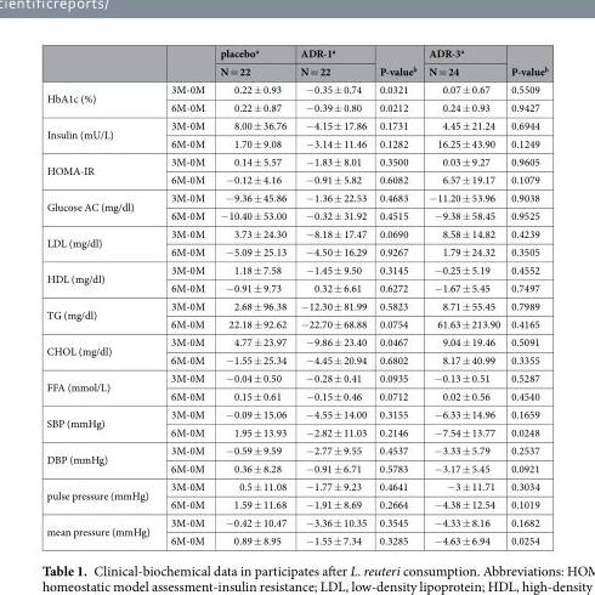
<table><thead><tr><td rowspan="2"></td><td rowspan="2"></td><td rowspan="2">placebo<sup>a</sup> N = 22</td><td rowspan="2">ADR-1<sup>a</sup> N = 22</td><td rowspan="2">P-value<sup>b</sup></td><td rowspan="2">ADR-3<sup>a</sup> N = 24</td><td rowspan="2">P-value<sup>b</sup></td></tr><tr></tr></thead><tbody><tr><td rowspan="2">HbA1c (%)</td><td>3M-0M</td><td>0.22 ± 0.93</td><td>−0.35 ± 0.74</td><td>0.0321</td><td>0.07 ± 0.67</td><td>0.5509</td></tr><tr><td>6M-0M</td><td>0.22 ± 0.87</td><td>−0.39 ± 0.80</td><td>0.0212</td><td>0.24 ± 0.93</td><td>0.9427</td></tr><tr><td rowspan="2">Insulin (mU/L)</td><td>3M-0M</td><td>8.00 ± 36.76</td><td>−4.15 ± 17.86</td><td>0.1731</td><td>4.45 ± 21.24</td><td>0.6944</td></tr><tr><td>6M-0M</td><td>1.70 ± 9.08</td><td>−3.14 ± 11.46</td><td>0.1282</td><td>16.25 ± 43.90</td><td>0.1249</td></tr><tr><td rowspan="2">HOMA-IR</td><td>3M-0M</td><td>0.14 ± 5.57</td><td>−1.83 ± 8.01</td><td>0.3500</td><td>0.03 ± 9.27</td><td>0.9605</td></tr><tr><td>6M-0M</td><td>−0.12 ± 4.16</td><td>−0.91 ± 5.82</td><td>0.6082</td><td>6.57 ± 19.17</td><td>0.1079</td></tr><tr><td rowspan="2">Glucose AC (mg/dl)</td><td>3M-0M</td><td>−9.36 ± 45.86</td><td>−1.36 ± 22.53</td><td>0.4683</td><td>−11.20 ± 53.96</td><td>0.9038</td></tr><tr><td>6M-0M</td><td>−10.40 ± 53.00</td><td>−0.32 ± 31.92</td><td>0.4515</td><td>−9.38 ± 58.45</td><td>0.9525</td></tr><tr><td rowspan="2">LDL (mg/dl)</td><td>3M-0M</td><td>3.73 ± 24.30</td><td>−8.18 ± 17.47</td><td>0.0690</td><td>8.58 ± 14.82</td><td>0.4239</td></tr><tr><td>6M-0M</td><td>−5.09 ± 25.13</td><td>−4.50 ± 16.29</td><td>0.9267</td><td>1.79 ± 24.32</td><td>0.3505</td></tr><tr><td rowspan="2">HDL (mg/dl)</td><td>3M-0M</td><td>1.18 ± 7.58</td><td>−1.45 ± 9.50</td><td>0.3145</td><td>−0.25 ± 5.19</td><td>0.4552</td></tr><tr><td>6M-0M</td><td>−0.91 ± 9.73</td><td>0.32 ± 6.61</td><td>0.6272</td><td>−1.67 ± 5.45</td><td>0.7497</td></tr><tr><td rowspan="2">TG (mg/dl)</td><td>3M-0M</td><td>2.68 ± 96.38</td><td>−12.30 ± 81.99</td><td>0.5823</td><td>8.71 ± 55.45</td><td>0.7989</td></tr><tr><td>6M-0M</td><td>22.18 ± 92.62</td><td>−22.70 ± 68.88</td><td>0.0754</td><td>61.63 ± 213.90</td><td>0.4165</td></tr><tr><td rowspan="2">CHOL (mg/dl)</td><td>3M-0M</td><td>4.77 ± 23.97</td><td>−9.86 ± 23.40</td><td>0.0467</td><td>9.04 ± 19.46</td><td>0.5091</td></tr><tr><td>6M-0M</td><td>−1.55 ± 25.34</td><td>−4.45 ± 20.94</td><td>0.6802</td><td>8.17 ± 40.99</td><td>0.3355</td></tr><tr><td rowspan="2">FFA (mmol/L)</td><td>3M-0M</td><td>−0.04 ± 0.50</td><td>−0.28 ± 0.41</td><td>0.0935</td><td>−0.13 ± 0.51</td><td>0.5287</td></tr><tr><td>6M-0M</td><td>0.15 ± 0.61</td><td>−0.15 ± 0.46</td><td>0.0712</td><td>0.02 ± 0.56</td><td>0.4540</td></tr><tr><td rowspan="2">SBP (mmHg)</td><td>3M-0M</td><td>−0.09 ± 15.06</td><td>−4.55 ± 14.00</td><td>0.3155</td><td>−6.33 ± 14.96</td><td>0.1659</td></tr><tr><td>6M-0M</td><td>1.95 ± 13.93</td><td>−2.82 ± 11.03</td><td>0.2146</td><td>−7.54 ± 13.77</td><td>0.0248</td></tr><tr><td rowspan="2">DBP (mmHg)</td><td>3M-0M</td><td>−0.59 ± 9.59</td><td>−2.77 ± 9.55</td><td>0.4537</td><td>−3.33 ± 5.79</td><td>0.2537</td></tr><tr><td>6M-0M</td><td>0.36 ± 8.28</td><td>−0.91 ± 6.71</td><td>0.5783</td><td>−3.17 ± 5.45</td><td>0.0921</td></tr><tr><td rowspan="2">pulse pressure (mmHg)</td><td>3M-0M</td><td>0.5 ± 11.08</td><td>−1.77 ± 9.23</td><td>0.4641</td><td>−3 ± 11.71</td><td>0.3034</td></tr><tr><td>6M-0M</td><td>1.59 ± 11.68</td><td>−1.91 ± 8.69</td><td>0.2664</td><td>−4.38 ± 12.54</td><td>0.1019</td></tr><tr><td rowspan="2">mean pressure (mmHg)</td><td>3M-0M</td><td>−0.42 ± 10.47</td><td>−3.36 ± 10.35</td><td>0.3545</td><td>−4.33 ± 8.16</td><td>0.1682</td></tr><tr><td>6M-0M</td><td>0.89 ± 8.95</td><td>−1.55 ± 7.34</td><td>0.3285</td><td>−4.63 ± 6.94</td><td>0.0254</td></tr></tbody></table>